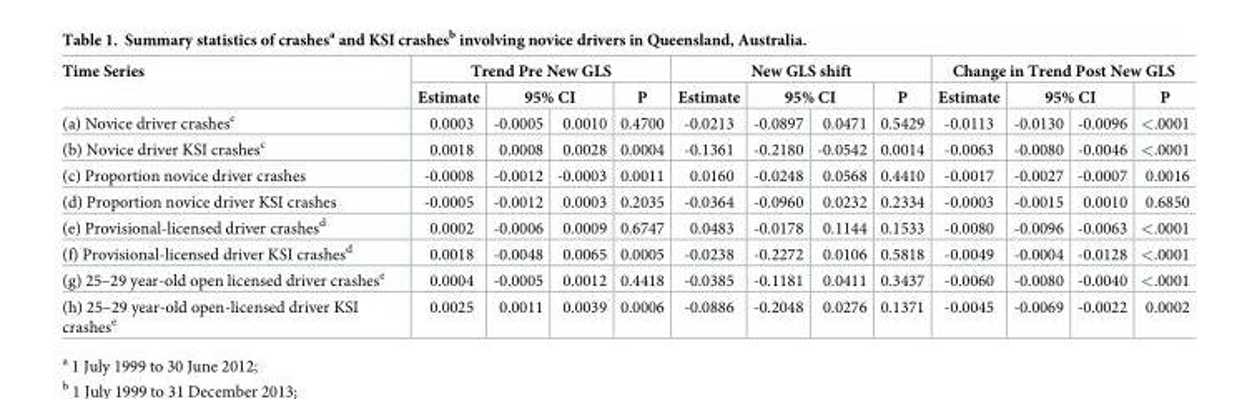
<table><thead><tr><td rowspan="3">Time Series (a) Novice driver crashes<sup>c</sup></td><td colspan="4">Trend Pre New GLS</td><td colspan="4">New GLS shift</td><td colspan="4">Change in Trend Post New GLS</td></tr><tr><td rowspan="2">Estimate 0.0003</td><td colspan="2">95% CI</td><td rowspan="2">P 0.4700</td><td rowspan="2">Estimate -0.0213</td><td colspan="2">95% CI</td><td rowspan="2">P 0.5429</td><td rowspan="2">Estimate -0.0113</td><td colspan="2">95% CI</td><td rowspan="2">P &lt;.0001</td></tr><tr><td>-0.0005</td><td>0.0010</td><td>-0.0897</td><td>0.0471</td><td>-0.0130</td><td>-0.0096</td></tr></thead><tbody><tr><td>(b) Novice driver KSI crashes<sup>c</sup></td><td>0.0018</td><td>0.0008</td><td>0.0028</td><td>0.0004</td><td>-0.1361</td><td>-0.2180</td><td>-0.0542</td><td>0.0014</td><td>-0.0063</td><td>-0.0080</td><td>-0.0046</td><td>&lt;.0001</td></tr><tr><td>(c) Proportion novice driver crashes</td><td>-0.0008</td><td>-0.0012</td><td>-0.0003</td><td>0.0011</td><td>0.0160</td><td>-0.0248</td><td>0.0568</td><td>0.4410</td><td>-0.0017</td><td>-0.0027</td><td>-0.0007</td><td>0.0016</td></tr><tr><td>(d) Proportion novice driver KSI crashes</td><td>-0.0005</td><td>-0.0012</td><td>0.0003</td><td>0.2035</td><td>-0.0364</td><td>-0.0960</td><td>0.0232</td><td>0.2334</td><td>-0.0003</td><td>-0.0015</td><td>0.0010</td><td>0.6850</td></tr><tr><td>(e) Provisional-licensed driver crashes<sup>d</sup></td><td>0.0002</td><td>-0.0006</td><td>0.0009</td><td>0.6747</td><td>0.0483</td><td>-0.0178</td><td>0.1144</td><td>0.1533</td><td>-0.0080</td><td>-0.0096</td><td>-0.0063</td><td>&lt;.0001</td></tr><tr><td>(f) Provisional-licensed driver KSI crashes<sup>d</sup></td><td>0.0018</td><td>-0.0048</td><td>0.0065</td><td>0.0005</td><td>-0.0238</td><td>-0.2272</td><td>0.0106</td><td>0.5818</td><td>-0.0049</td><td>-0.0004</td><td>-0.0128</td><td>&lt;.0001</td></tr><tr><td>(g) 25–29 year-old open licensed driver crashes<sup>e</sup></td><td>0.0004</td><td>-0.0005</td><td>0.0012</td><td>0.4418</td><td>-0.0385</td><td>-0.1181</td><td>0.0411</td><td>0.3437</td><td>-0.0060</td><td>-0.0080</td><td>-0.0040</td><td>&lt;.0001</td></tr><tr><td>(h) 25–29 year-old open-licensed driver KSI crashes<sup>e</sup></td><td>0.0025</td><td>0.0011</td><td>0.0039</td><td>0.0006</td><td>-0.0886</td><td>-0.2048</td><td>0.0276</td><td>0.1371</td><td>-0.0045</td><td>-0.0069</td><td>-0.0022</td><td>0.0002</td></tr></tbody></table>